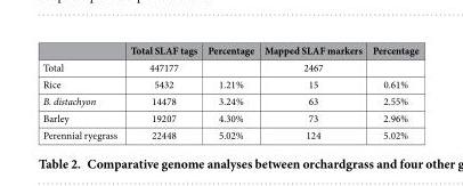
<table><thead><tr><td></td><td>Total SLAF tags</td><td>Percentage</td><td>Mapped SLAF markers</td><td>Percentage</td></tr></thead><tbody><tr><td>Total</td><td>447177</td><td></td><td>2467</td><td></td></tr><tr><td>Rice</td><td>5432</td><td>1.21%</td><td>15</td><td>0.61%</td></tr><tr><td>B. distachyon</td><td>14478</td><td>3.24%</td><td>63</td><td>2.55%</td></tr><tr><td>Barley</td><td>19207</td><td>4.30%</td><td>73</td><td>2.96%</td></tr><tr><td>Perennial ryegrass</td><td>22448</td><td>5.02%</td><td>124</td><td>5.02%</td></tr></tbody></table>